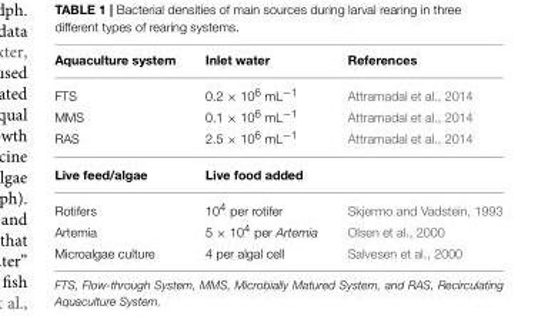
<table><thead><tr><td>Aquaculture system</td><td>Inlet water</td><td>References</td></tr></thead><tbody><tr><td>FTS</td><td>0.2 × 10<sup>6</sup> mL<sup>−1</sup></td><td>Attramadal et al., 2014</td></tr><tr><td>MMS</td><td>0.1 × 10<sup>6</sup> mL<sup>−1</sup></td><td>Attramadal et al., 2014</td></tr><tr><td>RAS</td><td>2.5 × 10<sup>6</sup> mL<sup>−1</sup></td><td>Attramadal et al., 2014</td></tr><tr><td>Live feed/algae</td><td>Live food added</td><td></td></tr><tr><td>Rotifers</td><td>10<sup>4</sup> per rotifer</td><td>Skjermo and Vadstein, 1993</td></tr><tr><td>Artemia</td><td>5 × 10<sup>4</sup> per Artemia</td><td>Olsen et al., 2000</td></tr><tr><td>Microalgae culture</td><td>4 per algal cell</td><td>Salvesen et al., 2000</td></tr></tbody></table>